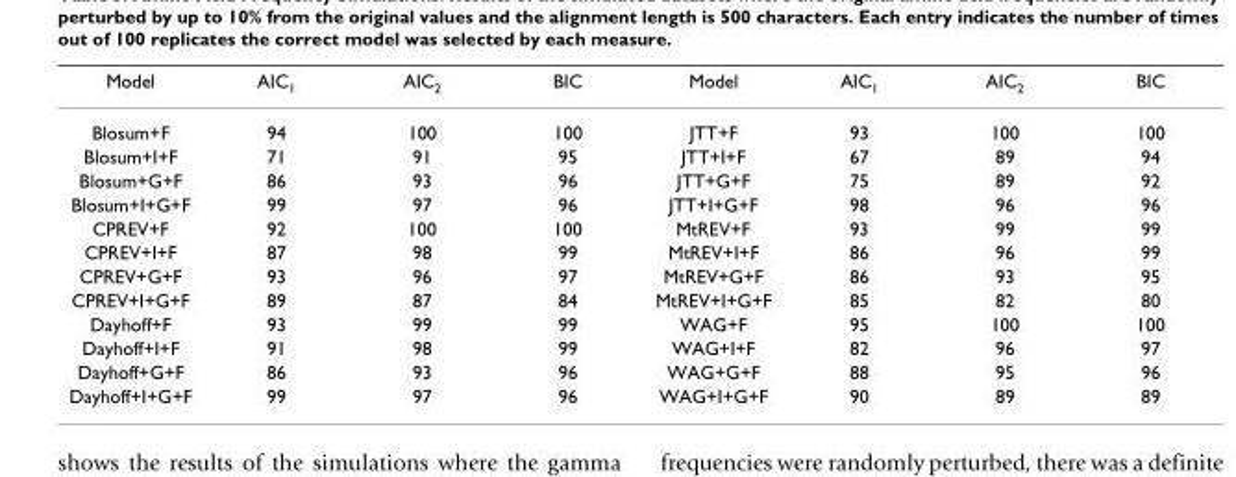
<table><thead><tr><td>Model</td><td>AIC<sub>1</sub></td><td>AIC<sub>2</sub></td><td>BIC</td><td>Model</td><td>AIC<sub>1</sub></td><td>AIC<sub>2</sub></td><td>BIC</td></tr></thead><tbody><tr><td>Blosum+F</td><td>94</td><td>100</td><td>100</td><td>JTT+F</td><td>93</td><td>100</td><td>100</td></tr><tr><td>Blosum+I+F</td><td>71</td><td>91</td><td>95</td><td>JTT+I+F</td><td>67</td><td>89</td><td>94</td></tr><tr><td>Blosum+G+F</td><td>86</td><td>93</td><td>96</td><td>JTT+G+F</td><td>75</td><td>89</td><td>92</td></tr><tr><td>Blosum+I+G+F</td><td>99</td><td>97</td><td>96</td><td>JTT+I+G+F</td><td>98</td><td>96</td><td>96</td></tr><tr><td>CPREV+F</td><td>92</td><td>100</td><td>100</td><td>MtREV+F</td><td>93</td><td>99</td><td>99</td></tr><tr><td>CPREV+I+F</td><td>87</td><td>98</td><td>99</td><td>MtREV+I+F</td><td>86</td><td>96</td><td>99</td></tr><tr><td>CPREV+G+F</td><td>93</td><td>96</td><td>97</td><td>MtREV+G+F</td><td>86</td><td>93</td><td>95</td></tr><tr><td>CPREV+I+G+F</td><td>89</td><td>87</td><td>84</td><td>MtREV+I+G+F</td><td>85</td><td>82</td><td>80</td></tr><tr><td>Dayhoff+F</td><td>93</td><td>99</td><td>99</td><td>WAG+F</td><td>95</td><td>100</td><td>100</td></tr><tr><td>Dayhoff+I+F</td><td>91</td><td>98</td><td>99</td><td>WAG+I+F</td><td>82</td><td>96</td><td>97</td></tr><tr><td>Dayhoff+G+F</td><td>86</td><td>93</td><td>96</td><td>WAG+G+F</td><td>88</td><td>95</td><td>96</td></tr><tr><td>Dayhoff+I+G+F</td><td>99</td><td>97</td><td>96</td><td>WAG+I+G+F</td><td>90</td><td>89</td><td>89</td></tr></tbody></table>